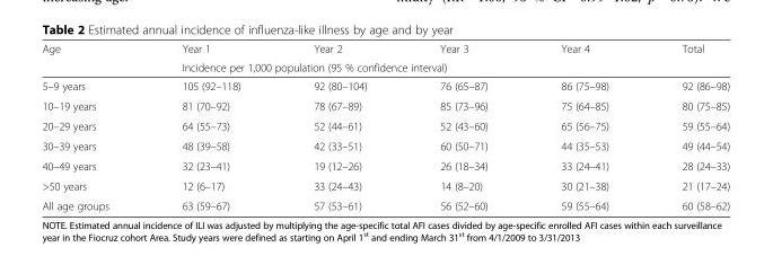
<table><thead><tr><td rowspan="2">Age</td><td>Year 1</td><td>Year 2</td><td>Year 3</td><td>Year 4</td><td>Total</td></tr><tr><td colspan="5">Incidence per 1,000 population (95 % confidence interval)</td></tr></thead><tbody><tr><td>5–9 years</td><td>105 (92–118)</td><td>92 (80–104)</td><td>76 (65–87)</td><td>86 (75–98)</td><td>92 (86–98)</td></tr><tr><td>10–19 years</td><td>81 (70–92)</td><td>78 (67–89)</td><td>85 (73–96)</td><td>75 (64–85)</td><td>80 (75–85)</td></tr><tr><td>20–29 years</td><td>64 (55–73)</td><td>52 (44–61)</td><td>52 (43–60)</td><td>65 (56–75)</td><td>59 (55–64)</td></tr><tr><td>30–39 years</td><td>48 (39–58)</td><td>42 (33–51)</td><td>60 (50–71)</td><td>44 (35–53)</td><td>49 (44–54)</td></tr><tr><td>40–49 years</td><td>32 (23–41)</td><td>19 (12–26)</td><td>26 (18–34)</td><td>33 (24–41)</td><td>28 (24–33)</td></tr><tr><td>&gt;50 years</td><td>12 (6–17)</td><td>33 (24–43)</td><td>14 (8–20)</td><td>30 (21–38)</td><td>21 (17–24)</td></tr><tr><td>All age groups</td><td>63 (59–67)</td><td>57 (53–61)</td><td>56 (52–60)</td><td>59 (55–64)</td><td>60 (58–62)</td></tr></tbody></table>